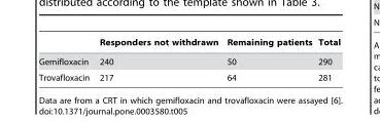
<table><thead><tr><td></td><td>Responders not withdrawn</td><td>Remaining patients</td><td>Total</td></tr></thead><tbody><tr><td>Gemifloxacin</td><td>240</td><td>50</td><td>290</td></tr><tr><td>Trovafloxacin</td><td>217</td><td>64</td><td>281</td></tr></tbody></table>